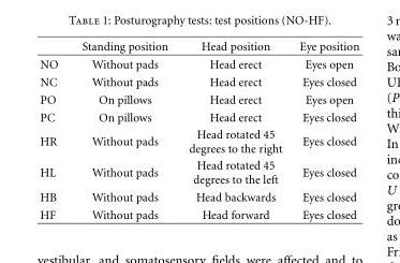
<table><thead><tr><td></td><td>Standing position</td><td>Head position</td><td>Eye position</td></tr></thead><tbody><tr><td>NO</td><td>Without pads</td><td>Head erect</td><td>Eyes open</td></tr><tr><td>NC</td><td>Without pads</td><td>Head erect</td><td>Eyes closed</td></tr><tr><td>PO</td><td>On pillows</td><td>Head erect</td><td>Eyes open</td></tr><tr><td>PC</td><td>On pillows</td><td>Head erect</td><td>Eyes closed</td></tr><tr><td>HR</td><td>Without pads</td><td>Head rotated 45 degrees to the right</td><td>Eyes closed</td></tr><tr><td>HL</td><td>Without pads</td><td>Head rotated 45 degrees to the left</td><td>Eyes closed</td></tr><tr><td>HB</td><td>Without pads</td><td>Head backwards</td><td>Eyes closed</td></tr><tr><td>HF</td><td>Without pads</td><td>Head forward</td><td>Eyes closed</td></tr></tbody></table>